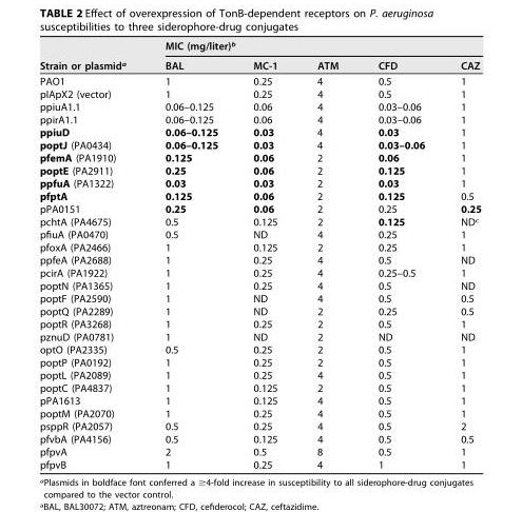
<table><thead><tr><td rowspan="2">Strain or plasmid<sup>a</sup></td><td colspan="5">MIC (mg/liter)<sup>b</sup></td></tr><tr><td>BAL</td><td>MC-1</td><td>ATM</td><td>CFD</td><td>CAZ</td></tr></thead><tbody><tr><td>PAO1</td><td>1</td><td>0.25</td><td>4</td><td>0.5</td><td>1</td></tr><tr><td>pIApX2 (vector)</td><td>1</td><td>0.25</td><td>4</td><td>0.5</td><td>1</td></tr><tr><td>ppiuA1.1</td><td>0.06–0.125</td><td>0.06</td><td>4</td><td>0.03–0.06</td><td>1</td></tr><tr><td>ppirA1.1</td><td>0.06–0.125</td><td>0.06</td><td>4</td><td>0.03–0.06</td><td>1</td></tr><tr><td>ppiuD</td><td>0.06–0.125</td><td>0.03</td><td>4</td><td>0.03</td><td>1</td></tr><tr><td>poptJ (PA0434)</td><td>0.06–0.125</td><td>0.03</td><td>4</td><td>0.03–0.06</td><td>1</td></tr><tr><td>pfemA (PA1910)</td><td>0.125</td><td>0.06</td><td>2</td><td>0.06</td><td>1</td></tr><tr><td>poptE (PA2911)</td><td>0.25</td><td>0.06</td><td>2</td><td>0.125</td><td>1</td></tr><tr><td>ppfuA (PA1322)</td><td>0.03</td><td>0.03</td><td>2</td><td>0.03</td><td>1</td></tr><tr><td>pfptA</td><td>0.125</td><td>0.06</td><td>2</td><td>0.125</td><td>0.5</td></tr><tr><td>pPA0151</td><td>0.25</td><td>0.06</td><td>2</td><td>0.25</td><td>0.25</td></tr><tr><td>pchtA (PA4675)</td><td>0.5</td><td>0.125</td><td>2</td><td>0.125</td><td>ND<sup>c</sup></td></tr><tr><td>pfiuA (PA0470)</td><td>0.5</td><td>ND</td><td>4</td><td>0.25</td><td>1</td></tr><tr><td>pfoxA (PA2466)</td><td>1</td><td>0.125</td><td>2</td><td>0.25</td><td>1</td></tr><tr><td>ppfeA (PA2688)</td><td>1</td><td>0.25</td><td>4</td><td>0.5</td><td>ND</td></tr><tr><td>pcirA (PA1922)</td><td>1</td><td>0.25</td><td>4</td><td>0.25–0.5</td><td>1</td></tr><tr><td>poptN (PA1365)</td><td>1</td><td>0.25</td><td>4</td><td>0.5</td><td>ND</td></tr><tr><td>poptF (PA2590)</td><td>1</td><td>ND</td><td>4</td><td>0.5</td><td>0.5</td></tr><tr><td>poptQ (PA2289)</td><td>1</td><td>ND</td><td>2</td><td>0.25</td><td>0.5</td></tr><tr><td>poptR (PA3268)</td><td>1</td><td>0.25</td><td>2</td><td>0.5</td><td>1</td></tr><tr><td>pznuD (PA0781)</td><td>1</td><td>ND</td><td>2</td><td>ND</td><td>ND</td></tr><tr><td>optO (PA2335)</td><td>0.5</td><td>0.25</td><td>2</td><td>0.5</td><td>1</td></tr><tr><td>poptP (PA0192)</td><td>1</td><td>0.25</td><td>2</td><td>0.5</td><td>1</td></tr><tr><td>poptL (PA2089)</td><td>1</td><td>0.25</td><td>4</td><td>0.5</td><td>1</td></tr><tr><td>poptC (PA4837)</td><td>1</td><td>0.125</td><td>2</td><td>0.5</td><td>1</td></tr><tr><td>pPA1613</td><td>1</td><td>0.125</td><td>4</td><td>0.5</td><td>1</td></tr><tr><td>poptM (PA2070)</td><td>1</td><td>0.25</td><td>4</td><td>0.5</td><td>1</td></tr><tr><td>psppR (PA2057)</td><td>0.5</td><td>0.25</td><td>4</td><td>0.5</td><td>2</td></tr><tr><td>pfvbA (PA4156)</td><td>0.5</td><td>0.125</td><td>4</td><td>0.5</td><td>0.5</td></tr><tr><td>pfpvA</td><td>2</td><td>0.5</td><td>8</td><td>0.5</td><td>1</td></tr><tr><td>pfpvB</td><td>1</td><td>0.25</td><td>4</td><td>1</td><td>1</td></tr></tbody></table>